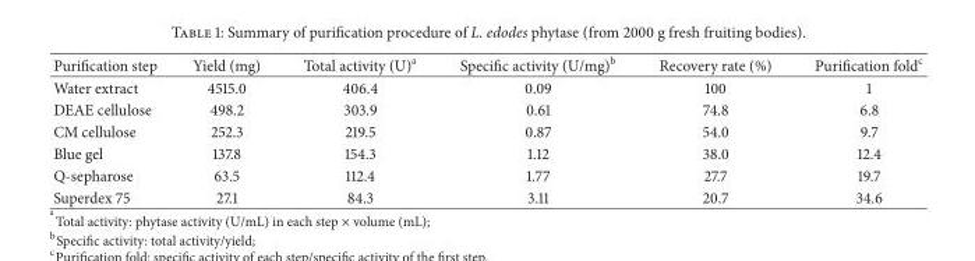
<table><thead><tr><td>Purification step</td><td>Yield (mg)</td><td>Total activity (U)<sup>a</sup></td><td>Specific activity (U/mg)<sup>b</sup></td><td>Recovery rate (%)</td><td>Purification fold<sup>c</sup></td></tr></thead><tbody><tr><td>Water extract</td><td>4515.0</td><td>406.4</td><td>0.09</td><td>100</td><td>1</td></tr><tr><td>DEAE cellulose</td><td>498.2</td><td>303.9</td><td>0.61</td><td>74.8</td><td>6.8</td></tr><tr><td>CM cellulose</td><td>252.3</td><td>219.5</td><td>0.87</td><td>54.0</td><td>9.7</td></tr><tr><td>Blue gel</td><td>137.8</td><td>154.3</td><td>1.12</td><td>38.0</td><td>12.4</td></tr><tr><td>Q-sepharose</td><td>63.5</td><td>112.4</td><td>1.77</td><td>27.7</td><td>19.7</td></tr><tr><td>Superdex 75</td><td>27.1</td><td>84.3</td><td>3.11</td><td>20.7</td><td>34.6</td></tr></tbody></table>